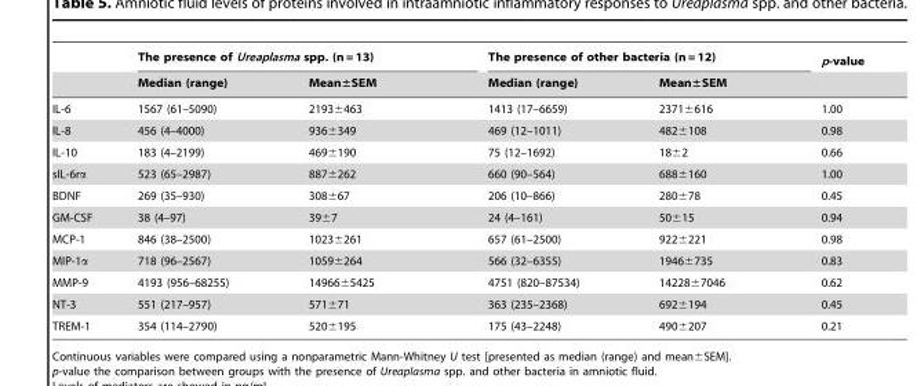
<table><thead><tr><td rowspan="2"></td><td colspan="2">The presence of Ureaplasma spp. (n = 13)</td><td colspan="2">The presence of other bacteria (n = 12)</td><td rowspan="2">p-value</td></tr><tr><td>Median (range)</td><td>Mean±SEM</td><td>Median (range)</td><td>Mean±SEM</td></tr></thead><tbody><tr><td>IL-6</td><td>1567 (61–5090)</td><td>2193±463</td><td>1413 (17–6659)</td><td>2371±616</td><td>1.00</td></tr><tr><td>IL-8</td><td>456 (4–4000)</td><td>936±349</td><td>469 (12–1011)</td><td>482±108</td><td>0.98</td></tr><tr><td>IL-10</td><td>183 (4–2199)</td><td>469±190</td><td>75 (12–1692)</td><td>18±2</td><td>0.66</td></tr><tr><td>sIL-6rα</td><td>523 (65–2987)</td><td>887±262</td><td>660 (90–564)</td><td>688±160</td><td>1.00</td></tr><tr><td>BDNF</td><td>269 (35–930)</td><td>308±67</td><td>206 (10–866)</td><td>280±78</td><td>0.45</td></tr><tr><td>GM-CSF</td><td>38 (4–97)</td><td>39±7</td><td>24 (4–161)</td><td>50±15</td><td>0.94</td></tr><tr><td>MCP-1</td><td>846 (38–2500)</td><td>1023±261</td><td>657 (61–2500)</td><td>922±221</td><td>0.98</td></tr><tr><td>MIP-1α</td><td>718 (96–2567)</td><td>1059±264</td><td>566 (32–6355)</td><td>1946±735</td><td>0.83</td></tr><tr><td>MMP-9</td><td>4193 (956–68255)</td><td>14966±5425</td><td>4751 (820–87534)</td><td>14228±7046</td><td>0.62</td></tr><tr><td>NT-3</td><td>551 (217–957)</td><td>571±71</td><td>363 (235–2368)</td><td>692±194</td><td>0.45</td></tr><tr><td>TREM-1</td><td>354 (114–2790)</td><td>520±195</td><td>175 (43–2248)</td><td>490±207</td><td>0.21</td></tr></tbody></table>